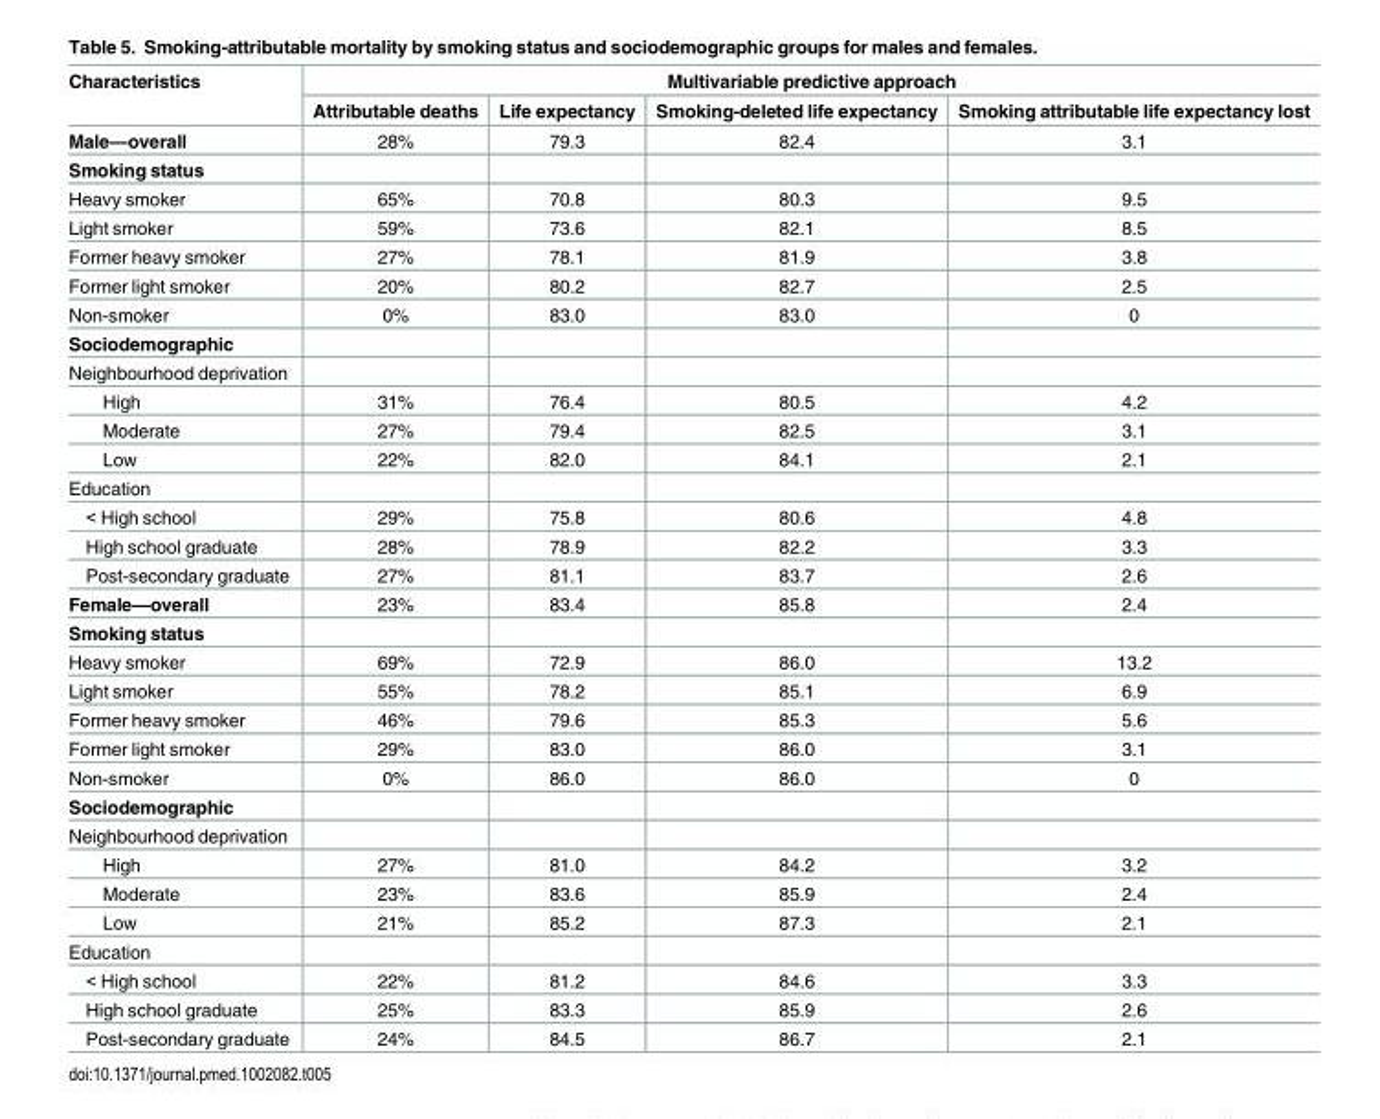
<table><thead><tr><td rowspan="2">Characteristics</td><td colspan="4">Multivariable predictive approach</td></tr><tr><td>Attributable deaths</td><td>Life expectancy</td><td>Smoking-deleted life expectancy</td><td>Smoking attributable life expectancy lost</td></tr></thead><tbody><tr><td>Male—overall</td><td>28%</td><td>79.3</td><td>82.4</td><td>3.1</td></tr><tr><td colspan="5">Smoking status</td></tr><tr><td>Heavy smoker</td><td>65%</td><td>70.8</td><td>80.3</td><td>9.5</td></tr><tr><td>Light smoker</td><td>59%</td><td>73.6</td><td>82.1</td><td>8.5</td></tr><tr><td>Former heavy smoker</td><td>27%</td><td>78.1</td><td>81.9</td><td>3.8</td></tr><tr><td>Former light smoker</td><td>20%</td><td>80.2</td><td>82.7</td><td>2.5</td></tr><tr><td>Non-smoker</td><td>0%</td><td>83.0</td><td>83.0</td><td>0</td></tr><tr><td colspan="5">Sociodemographic</td></tr><tr><td colspan="5">Neighbourhood deprivation</td></tr><tr><td>High</td><td>31%</td><td>76.4</td><td>80.5</td><td>4.2</td></tr><tr><td>Moderate</td><td>27%</td><td>79.4</td><td>82.5</td><td>3.1</td></tr><tr><td>Low</td><td>22%</td><td>82.0</td><td>84.1</td><td>2.1</td></tr><tr><td colspan="5">Education</td></tr><tr><td>&lt; High school</td><td>29%</td><td>75.8</td><td>80.6</td><td>4.8</td></tr><tr><td>High school graduate</td><td>28%</td><td>78.9</td><td>82.2</td><td>3.3</td></tr><tr><td>Post-secondary graduate</td><td>27%</td><td>81.1</td><td>83.7</td><td>2.6</td></tr><tr><td>Female—overall</td><td>23%</td><td>83.4</td><td>85.8</td><td>2.4</td></tr><tr><td colspan="5">Smoking status</td></tr><tr><td>Heavy smoker</td><td>69%</td><td>72.9</td><td>86.0</td><td>13.2</td></tr><tr><td>Light smoker</td><td>55%</td><td>78.2</td><td>85.1</td><td>6.9</td></tr><tr><td>Former heavy smoker</td><td>46%</td><td>79.6</td><td>85.3</td><td>5.6</td></tr><tr><td>Former light smoker</td><td>29%</td><td>83.0</td><td>86.0</td><td>3.1</td></tr><tr><td>Non-smoker</td><td>0%</td><td>86.0</td><td>86.0</td><td>0</td></tr><tr><td colspan="5">Sociodemographic</td></tr><tr><td colspan="5">Neighbourhood deprivation</td></tr><tr><td>High</td><td>27%</td><td>81.0</td><td>84.2</td><td>3.2</td></tr><tr><td>Moderate</td><td>23%</td><td>83.6</td><td>85.9</td><td>2.4</td></tr><tr><td>Low</td><td>21%</td><td>85.2</td><td>87.3</td><td>2.1</td></tr><tr><td colspan="5">Education</td></tr><tr><td>&lt; High school</td><td>22%</td><td>81.2</td><td>84.6</td><td>3.3</td></tr><tr><td>High school graduate</td><td>25%</td><td>83.3</td><td>85.9</td><td>2.6</td></tr><tr><td>Post-secondary graduate</td><td>24%</td><td>84.5</td><td>86.7</td><td>2.1</td></tr></tbody></table>